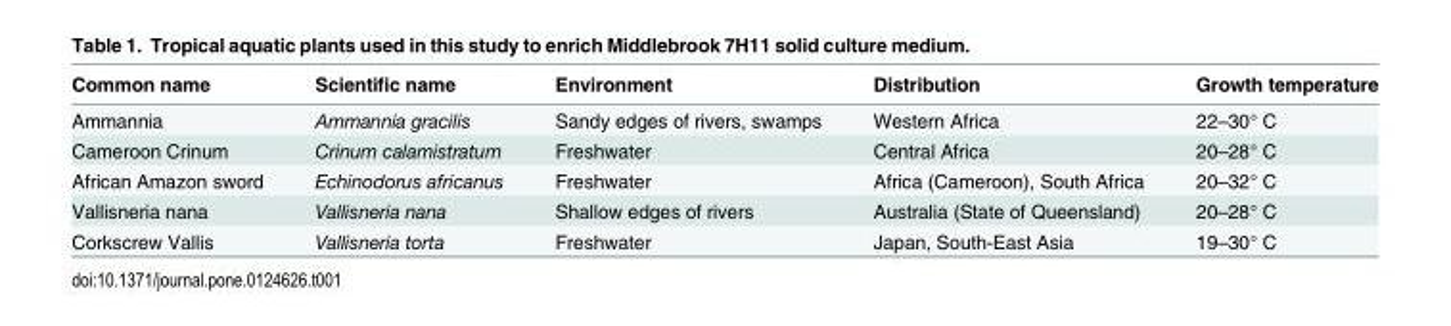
<table><thead><tr><td>Common name</td><td>Scientific name</td><td>Environment</td><td>Distribution</td><td>Growth temperature</td></tr></thead><tbody><tr><td>Ammannia</td><td>Ammannia gracilis</td><td>Sandy edges of rivers, swamps</td><td>Western Africa</td><td>22–30° C</td></tr><tr><td>Cameroon Crinum</td><td>Crinum calamistratum</td><td>Freshwater</td><td>Central Africa</td><td>20–28° C</td></tr><tr><td>African Amazon sword</td><td>Echinodorus africanus</td><td>Freshwater</td><td>Africa (Cameroon), South Africa</td><td>20–32° C</td></tr><tr><td>Vallisneria nana</td><td>Vallisneria nana</td><td>Shallow edges of rivers</td><td>Australia (State of Queensland)</td><td>20–28° C</td></tr><tr><td>Corkscrew Vallis</td><td>Vallisneria torta</td><td>Freshwater</td><td>Japan, South-East Asia</td><td>19–30° C</td></tr></tbody></table>